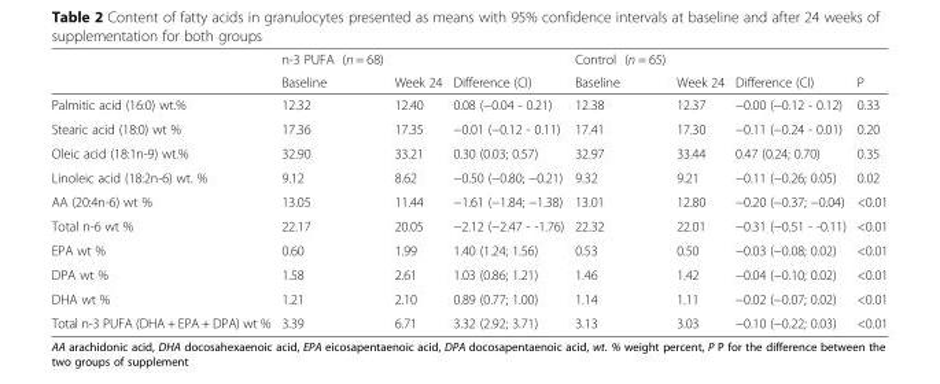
<table><thead><tr><td rowspan="2"></td><td rowspan="2">n-3 PUFA (n = 68) Baseline</td><td rowspan="2">Week 24</td><td rowspan="2">Difference (CI)</td><td rowspan="2">Control (n = 65) Baseline</td><td rowspan="2">Week 24</td><td rowspan="2">Difference (CI)</td><td rowspan="2">P</td></tr><tr></tr></thead><tbody><tr><td>Palmitic acid (16:0) wt.%</td><td>12.32</td><td>12.40</td><td>0.08 (−0.04 - 0.21)</td><td>12.38</td><td>12.37</td><td>−0.00 (−0.12 - 0.12)</td><td>0.33</td></tr><tr><td>Stearic acid (18:0) wt %</td><td>17.36</td><td>17.35</td><td>−0.01 (−0.12 - 0.11)</td><td>17.41</td><td>17.30</td><td>−0.11 (−0.24 - 0.01)</td><td>0.20</td></tr><tr><td>Oleic acid (18:1n-9) wt.%</td><td>32.90</td><td>33.21</td><td>0.30 (0.03; 0.57)</td><td>32.97</td><td>33.44</td><td>0.47 (0.24; 0.70)</td><td>0.35</td></tr><tr><td>Linoleic acid (18:2n-6) wt. %</td><td>9.12</td><td>8.62</td><td>−0.50 (−0.80; −0.21)</td><td>9.32</td><td>9.21</td><td>−0.11 (−0.26; 0.05)</td><td>0.02</td></tr><tr><td>AA (20:4n-6) wt %</td><td>13.05</td><td>11.44</td><td>−1.61 (−1.84; −1.38)</td><td>13.01</td><td>12.80</td><td>−0.20 (−0.37; −0.04)</td><td>&lt;0.01</td></tr><tr><td>Total n-6 wt %</td><td>22.17</td><td>20.05</td><td>−2.12 (−2.47 - -1.76)</td><td>22.32</td><td>22.01</td><td>−0.31 (−0.51 - -0.11)</td><td>&lt;0.01</td></tr><tr><td>EPA wt %</td><td>0.60</td><td>1.99</td><td>1.40 (1.24; 1.56)</td><td>0.53</td><td>0.50</td><td>−0.03 (−0.08; 0.02)</td><td>&lt;0.01</td></tr><tr><td>DPA wt %</td><td>1.58</td><td>2.61</td><td>1.03 (0.86; 1.21)</td><td>1.46</td><td>1.42</td><td>−0.04 (−0.10; 0.02)</td><td>&lt;0.01</td></tr><tr><td>DHA wt %</td><td>1.21</td><td>2.10</td><td>0.89 (0.77; 1.00)</td><td>1.14</td><td>1.11</td><td>−0.02 (−0.07; 0.02)</td><td>&lt;0.01</td></tr><tr><td>Total n-3 PUFA (DHA + EPA + DPA) wt %</td><td>3.39</td><td>6.71</td><td>3.32 (2.92; 3.71)</td><td>3.13</td><td>3.03</td><td>−0.10 (−0.22; 0.03)</td><td>&lt;0.01</td></tr></tbody></table>